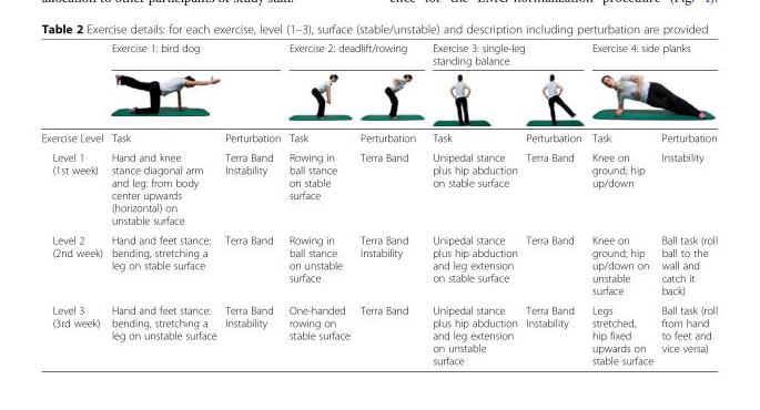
<table><thead><tr><td rowspan="2">Exercise Level</td><td colspan="2">Exercise 1: bird dog</td><td colspan="2">Exercise 2: deadlift/rowing</td><td colspan="2">Exercise 3: single-leg standing balance</td><td colspan="2">Exercise 4: side planks</td></tr><tr><td>Task</td><td>Perturbation</td><td>Task</td><td>Perturbation</td><td>Task</td><td>Perturbation</td><td>Task</td><td>Perturbation</td></tr></thead><tbody><tr><td>Level 1 (1st week)</td><td>Hand and knee stance diagonal arm and leg: from body center upwards (horizontal) on unstable surface</td><td>Terra Band Instability</td><td>Rowing in ball stance on stable surface</td><td>Terra Band</td><td>Unipedal stance plus hip abduction on stable surface</td><td>Terra Band</td><td>Knee on ground; hip up/down</td><td>Instability</td></tr><tr><td>Level 2 (2nd week)</td><td>Hand and feet stance: bending, stretching a leg on stable surface</td><td>Terra Band</td><td>Rowing in ball stance on unstable surface</td><td>Terra Band Instability</td><td>Unipedal stance plus hip abduction and leg extension on stable surface</td><td>Terra Band</td><td>Knee on ground; hip up/down on unstable surface</td><td>Ball task (roll ball to the wall and catch it back)</td></tr><tr><td>Level 3 (3rd week)</td><td>Hand and feet stance: bending, stretching a leg on unstable surface</td><td>Terra Band Instability</td><td>One-handed rowing on stable surface</td><td>Terra Band</td><td>Unipedal stance plus hip abduction and leg extension on unstable surface</td><td>Terra Band Instability</td><td>Legs stretched, hip fixed upwards on stable surface</td><td>Ball task (roll from hand to feet and vice versa)</td></tr></tbody></table>